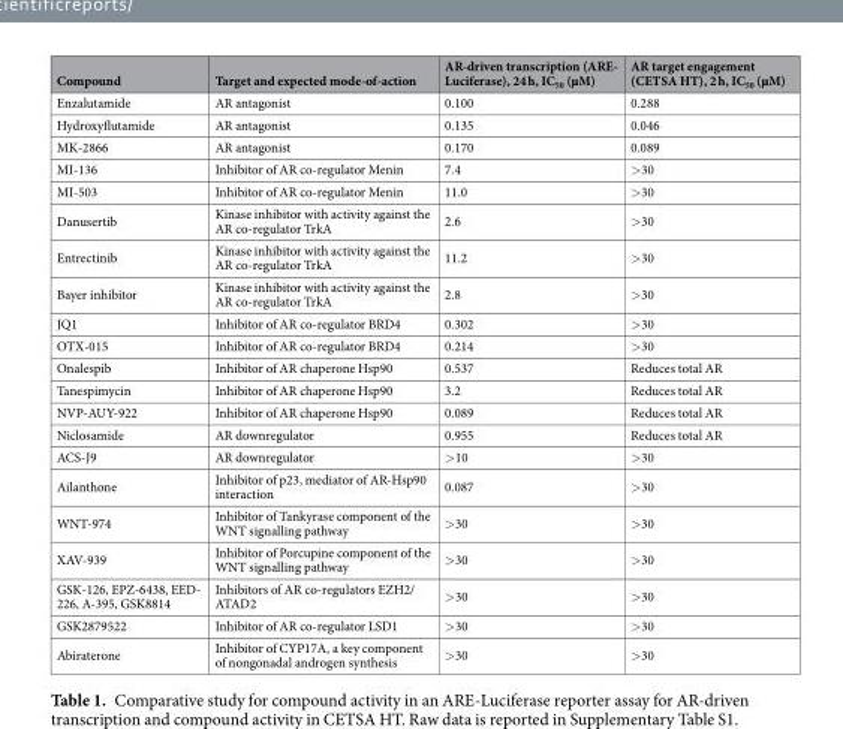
<table><thead><tr><td>Compound</td><td>Target and expected mode-of-action</td><td>AR-driven transcription (ARE- Luciferase), 24 h, IC<sub>50</sub> (µM)</td><td>AR target engagement (CETSA HT), 2 h, IC<sub>50</sub> (µM)</td></tr></thead><tbody><tr><td>Enzalutamide</td><td>AR antagonist</td><td>0.100</td><td>0.288</td></tr><tr><td>Hydroxyflutamide</td><td>AR antagonist</td><td>0.135</td><td>0.046</td></tr><tr><td>MK-2866</td><td>AR antagonist</td><td>0.170</td><td>0.089</td></tr><tr><td>MI-136</td><td>Inhibitor of AR co-regulator Menin</td><td>7.4</td><td>&gt;30</td></tr><tr><td>MI-503</td><td>Inhibitor of AR co-regulator Menin</td><td>11.0</td><td>&gt;30</td></tr><tr><td>Danusertib</td><td>Kinase inhibitor with activity against the AR co-regulator TrkA</td><td>2.6</td><td>&gt;30</td></tr><tr><td>Entrectinib</td><td>Kinase inhibitor with activity against the AR co-regulator TrkA</td><td>11.2</td><td>&gt;30</td></tr><tr><td>Bayer inhibitor</td><td>Kinase inhibitor with activity against the AR co-regulator TrkA</td><td>2.8</td><td>&gt;30</td></tr><tr><td>JQ1</td><td>Inhibitor of AR co-regulator BRD4</td><td>0.302</td><td>&gt;30</td></tr><tr><td>OTX-015</td><td>Inhibitor of AR co-regulator BRD4</td><td>0.214</td><td>&gt;30</td></tr><tr><td>Onalespib</td><td>Inhibitor of AR chaperone Hsp90</td><td>0.537</td><td>Reduces total AR</td></tr><tr><td>Tanespimycin</td><td>Inhibitor of AR chaperone Hsp90</td><td>3.2</td><td>Reduces total AR</td></tr><tr><td>NVP-AUY-922</td><td>Inhibitor of AR chaperone Hsp90</td><td>0.089</td><td>Reduces total AR</td></tr><tr><td>Niclosamide</td><td>AR downregulator</td><td>0.955</td><td>Reduces total AR</td></tr><tr><td>ACS-J9</td><td>AR downregulator</td><td>&gt;10</td><td>&gt;30</td></tr><tr><td>Ailanthone</td><td>Inhibitor of p23, mediator of AR-Hsp90 interaction</td><td>0.087</td><td>&gt;30</td></tr><tr><td>WNT-974</td><td>Inhibitor of Tankyrase component of the WNT signalling pathway</td><td>&gt;30</td><td>&gt;30</td></tr><tr><td>XAV-939</td><td>Inhibitor of Porcupine component of the WNT signalling pathway</td><td>&gt;30</td><td>&gt;30</td></tr><tr><td>GSK-126, EPZ-6438, EED- 226, A-395, GSK8814</td><td>Inhibitors of AR co-regulators EZH2/ ATAD2</td><td>&gt;30</td><td>&gt;30</td></tr><tr><td>GSK2879522</td><td>Inhibitor of AR co-regulator LSD1</td><td>&gt;30</td><td>&gt;30</td></tr><tr><td>Abiraterone</td><td>Inhibitor of CYP17A, a key component of nongonadal androgen synthesis</td><td>&gt;30</td><td>&gt;30</td></tr></tbody></table>